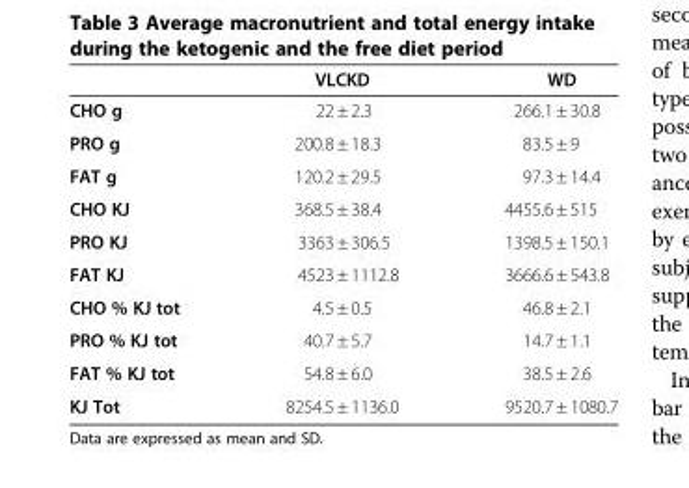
<table><thead><tr><td></td><td>VLCKD</td><td>WD</td></tr></thead><tbody><tr><td>CHO g</td><td>22 ± 2.3</td><td>266.1 ± 30.8</td></tr><tr><td>PRO g</td><td>200.8 ± 18.3</td><td>83.5 ± 9</td></tr><tr><td>FAT g</td><td>120.2 ± 29.5</td><td>97.3 ± 14.4</td></tr><tr><td>CHO KJ</td><td>368.5 ± 38.4</td><td>4455.6 ± 515</td></tr><tr><td>PRO KJ</td><td>3363 ± 306.5</td><td>1398.5 ± 150.1</td></tr><tr><td>FAT KJ</td><td>4523 ± 1112.8</td><td>3666.6 ± 543.8</td></tr><tr><td>CHO % KJ tot</td><td>4.5 ± 0.5</td><td>46.8 ± 2.1</td></tr><tr><td>PRO % KJ tot</td><td>40.7 ± 5.7</td><td>14.7 ± 1.1</td></tr><tr><td>FAT % KJ tot</td><td>54.8 ± 6.0</td><td>38.5 ± 2.6</td></tr><tr><td>KJ Tot</td><td>8254.5 ± 1136.0</td><td>9520.7 ± 1080.7</td></tr></tbody></table>